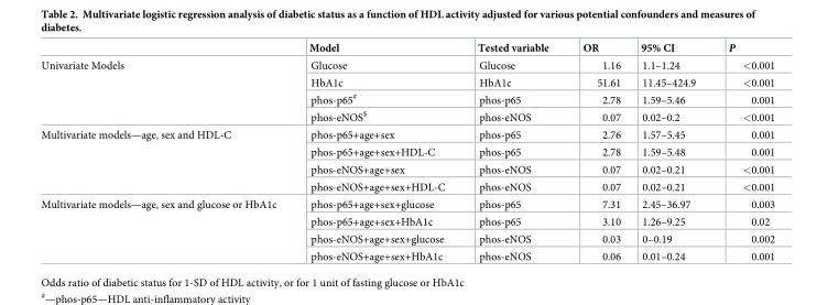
<table><thead><tr><td></td><td>Model</td><td>Tested variable</td><td>OR</td><td>95% CI</td><td>P</td></tr></thead><tbody><tr><td rowspan="4">Univariate Models</td><td>Glucose</td><td>Glucose</td><td>1.16</td><td>1.1–1.24</td><td>&lt;0.001</td></tr><tr><td>HbA1c</td><td>HbA1c</td><td>51.61</td><td>11.45–424.9</td><td>&lt;0.001</td></tr><tr><td>phos-p65<sup>#</sup></td><td>phos-p65</td><td>2.78</td><td>1.59–5.46</td><td>0.001</td></tr><tr><td>phos-eNOS<sup>$</sup></td><td>phos-eNOS</td><td>0.07</td><td>0.02–0.2</td><td>&lt;0.001</td></tr><tr><td rowspan="4">Multivariate models—age, sex and HDL-C</td><td>phos-p65+age+sex</td><td>phos-p65</td><td>2.76</td><td>1.57–5.45</td><td>0.001</td></tr><tr><td>phos-p65+age+sex+HDL-C</td><td>phos-p65</td><td>2.78</td><td>1.59–5.48</td><td>0.001</td></tr><tr><td>phos-eNOS+age+sex</td><td>phos-eNOS</td><td>0.07</td><td>0.02–0.21</td><td>&lt;0.001</td></tr><tr><td>phos-eNOS+age+sex+HDL-C</td><td>phos-eNOS</td><td>0.07</td><td>0.02–0.21</td><td>&lt;0.001</td></tr><tr><td rowspan="4">Multivariate models—age, sex and glucose or HbA1c</td><td>phos-p65+age+sex+glucose</td><td>phos-p65</td><td>7.31</td><td>2.45–36.97</td><td>0.003</td></tr><tr><td>phos-p65+age+sex+HbA1c</td><td>phos-p65</td><td>3.10</td><td>1.26–9.25</td><td>0.02</td></tr><tr><td>phos-eNOS+age+sex+glucose</td><td>phos-eNOS</td><td>0.03</td><td>0–0.19</td><td>0.002</td></tr><tr><td>phos-eNOS+age+sex+HbA1c</td><td>phos-eNOS</td><td>0.06</td><td>0.01–0.24</td><td>0.001</td></tr></tbody></table>